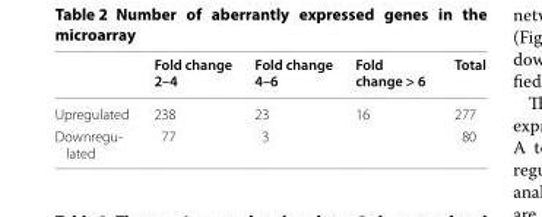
<table><thead><tr><td></td><td>Fold change 2–4</td><td>Fold change 4–6</td><td>Fold change &gt; 6</td><td>Total</td></tr></thead><tbody><tr><td>Upregulated</td><td>238</td><td>23</td><td>16</td><td>277</td></tr><tr><td>Downregu‑ lated</td><td>77</td><td>3</td><td></td><td>80</td></tr></tbody></table>